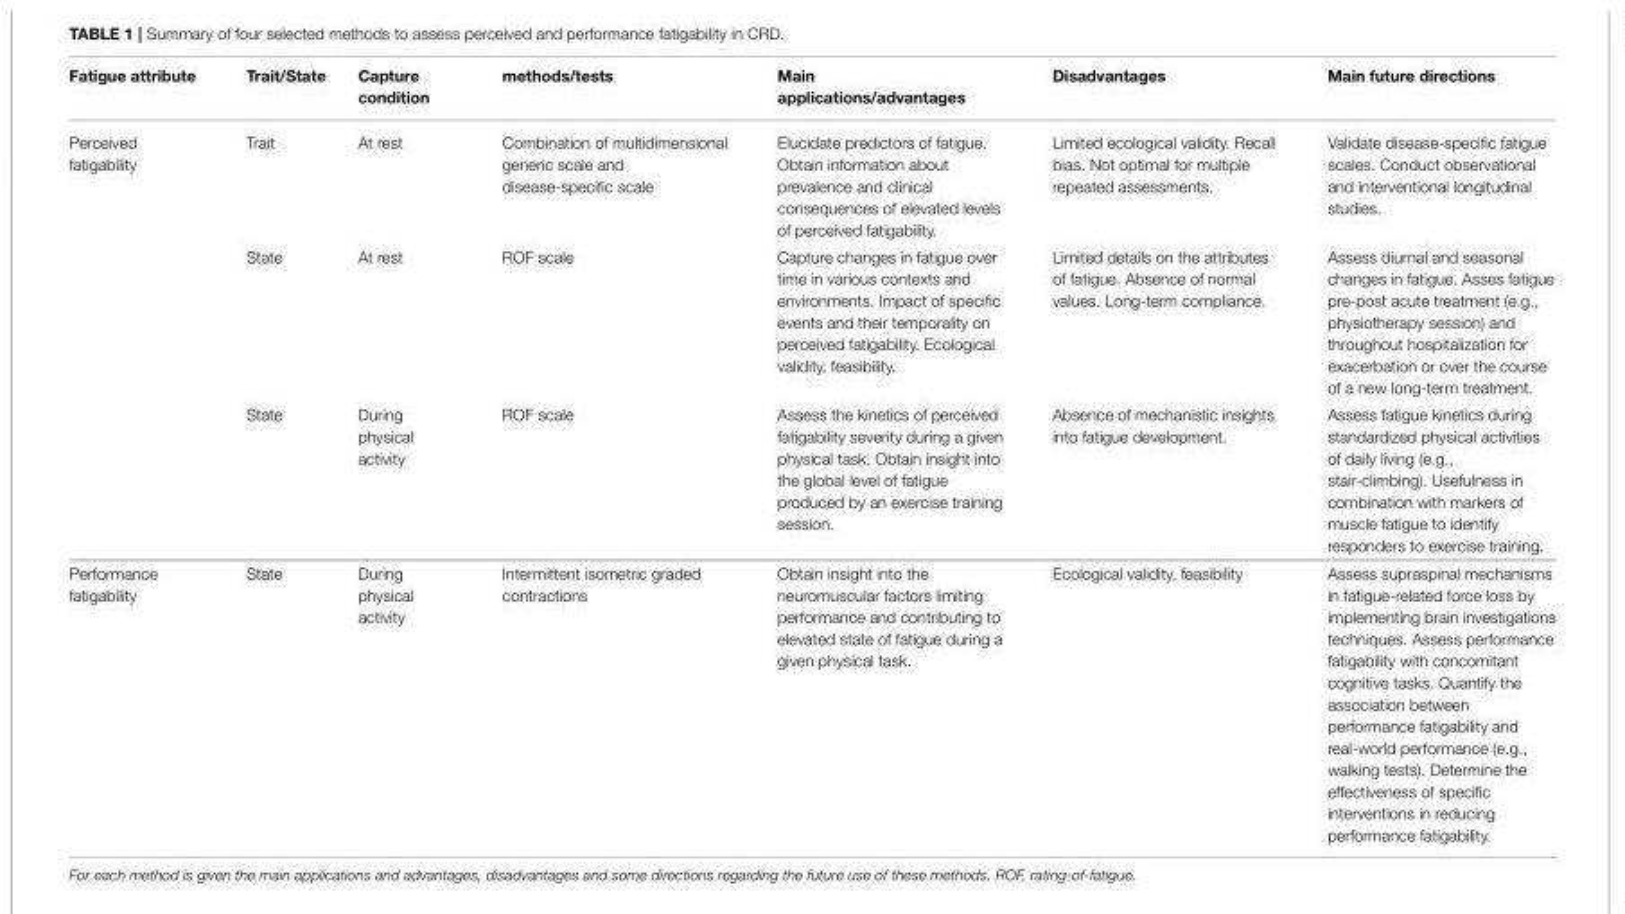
<table><thead><tr><td>Fatigue attribute</td><td>Trait/State</td><td>Capture condition</td><td>methods/tests</td><td>Main applications/advantages</td><td>Disadvantages</td><td>Main future directions</td></tr></thead><tbody><tr><td rowspan="3">Perceived fatigability</td><td>Trait</td><td>At rest</td><td>Combination of multidimensional generic scale and disease-specific scale</td><td>Elucidate predictors of fatigue. Obtain information about prevalence and clinical consequences of elevated levels of perceived fatigability.</td><td>Limited ecological validity. Recall bias. Not optimal for multiple repeated assessments.</td><td>Validate disease-specific fatigue scales. Conduct observational and interventional longitudinal studies.</td></tr><tr><td>State</td><td>At rest</td><td>ROF scale</td><td>Capture changes in fatigue over time in various contexts and environments. Impact of specific events and their temporality on perceived fatigability. Ecological validity, feasibility.</td><td>Limited details on the attributes of fatigue. Absence of normal values. Long-term compliance.</td><td>Assess diurnal and seasonal changes in fatigue. Asses fatigue pre-post acute treatment (e.g., physiotherapy session) and throughout hospitalization for exacerbation or over the course of a new long-term treatment.</td></tr><tr><td>State</td><td>During physical activity</td><td>ROF scale</td><td>Assess the kinetics of perceived fatigability severity during a given physical task. Obtain insight into the global level of fatigue produced by an exercise training session.</td><td>Absence of mechanistic insights into fatigue development.</td><td>Assess fatigue kinetics during standardized physical activities of daily living (e.g., stair-climbing). Usefulness in combination with markers of muscle fatigue to identify responders to exercise training.</td></tr><tr><td>Performance fatigability</td><td>State</td><td>During physical activity</td><td>Intermittent isometric graded contractions</td><td>Obtain insight into the neuromuscular factors limiting performance and contributing to elevated state of fatigue during a given physical task.</td><td>Ecological validity, feasibility</td><td>Assess supraspinal mechanisms in fatigue-related force loss by implementing brain investigations techniques. Assess performance fatigability with concomitant cognitive tasks. Quantify the association between performance fatigability and real-world performance (e.g., walking tests). Determine the effectiveness of specific interventions in reducing performance fatigability.</td></tr></tbody></table>